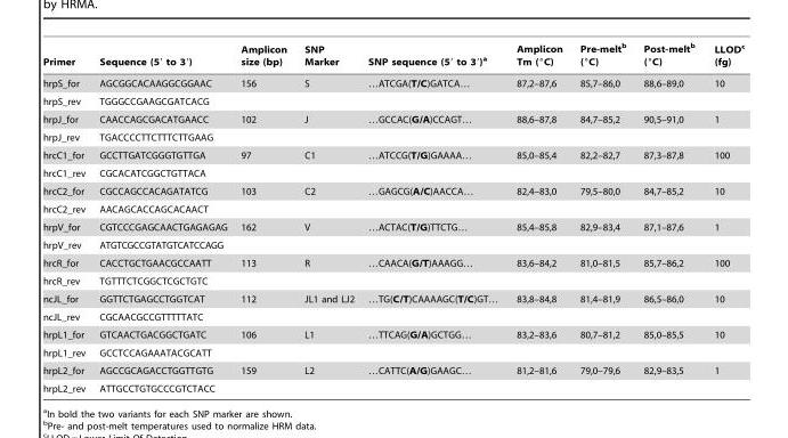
<table><thead><tr><td>Primer</td><td>Sequence (5′ to 3′)</td><td>Amplicon size (bp)</td><td>SNP Marker</td><td>SNP sequence (5′ to 3′)<sup>a</sup></td><td>Amplicon Tm (°C)</td><td>Pre-melt<sup>b</sup> (°C)</td><td>Post-melt<sup>b</sup> (°C)</td><td>LLOD<sup>c</sup> (fg)</td></tr></thead><tbody><tr><td>hrpS_for</td><td>AGCGGCACAAGGCGGAAC</td><td>156</td><td>S</td><td>…ATCGA(T/C)GATCA…</td><td>87,2–87,6</td><td>85,7–86,0</td><td>88,6–89,0</td><td>10</td></tr><tr><td>hrpS_rev</td><td>TGGGCCGAAGCGATCACG</td><td></td><td></td><td></td><td></td><td></td><td></td><td></td></tr><tr><td>hrpJ_for</td><td>CAACCAGCGACATGAACC</td><td>102</td><td>J</td><td>…GCCAC(G/A)CCAGT…</td><td>88,6–87,8</td><td>84,7–85,2</td><td>90,5–91,0</td><td>1</td></tr><tr><td>hrpJ_rev</td><td>TGACCCCTTCTTTCTTGAAG</td><td></td><td></td><td></td><td></td><td></td><td></td><td></td></tr><tr><td>hrcC1_for</td><td>GCCTTGATCGGGTGTTGA</td><td>97</td><td>C1</td><td>…ATCCG(T/G)GAAAA…</td><td>85,0–85,4</td><td>82,2–82,7</td><td>87,3–87,8</td><td>100</td></tr><tr><td>hrcC1_rev</td><td>CGCACATCGGCTGTTACA</td><td></td><td></td><td></td><td></td><td></td><td></td><td></td></tr><tr><td>hrcC2_for</td><td>CGCCAGCCACAGATATCG</td><td>103</td><td>C2</td><td>…GAGCG(A/C)AACCA…</td><td>82,4–83,0</td><td>79,5–80,0</td><td>84,7–85,2</td><td>10</td></tr><tr><td>hrcC2_rev</td><td>AACAGCACCAGCACAACT</td><td></td><td></td><td></td><td></td><td></td><td></td><td></td></tr><tr><td>hrpV_for</td><td>CGTCCCGAGCAACTGAGAGAG</td><td>162</td><td>V</td><td>…ACTAC(T/G)TTCTG…</td><td>85,4–85,8</td><td>82,9–83,4</td><td>87,1–87,6</td><td>1</td></tr><tr><td>hrpV_rev</td><td>ATGTCGCCGTATGTCATCCAGG</td><td></td><td></td><td></td><td></td><td></td><td></td><td></td></tr><tr><td>hrcR_for</td><td>CACCTGCTGAACGCCAATT</td><td>113</td><td>R</td><td>…CAACA(G/T)AAAGG…</td><td>83,6–84,2</td><td>81,0–81,5</td><td>85,7–86,2</td><td>100</td></tr><tr><td>hrcR_rev</td><td>TGTTTCTCGGCTCGCTGTC</td><td></td><td></td><td></td><td></td><td></td><td></td><td></td></tr><tr><td>ncJL_for</td><td>GGTTCTGAGCCTGGTCAT</td><td>112</td><td>JL1 and LJ2</td><td>…TG(C/T)CAAAAGC(T/C)GT…</td><td>83,8–84,8</td><td>81,4–81,9</td><td>86,5–86,0</td><td>10</td></tr><tr><td>ncJL_rev</td><td>CGCAACGCCGTTTTTATC</td><td></td><td></td><td></td><td></td><td></td><td></td><td></td></tr><tr><td>hrpL1_for</td><td>GTCAACTGACGGCTGATC</td><td>106</td><td>L1</td><td>…TTCAG(G/A)GCTGG…</td><td>83,2–83,6</td><td>80,7–81,2</td><td>85,0–85,5</td><td>10</td></tr><tr><td>hrpL1_rev</td><td>GCCTCCAGAAATACGCATT</td><td></td><td></td><td></td><td></td><td></td><td></td><td></td></tr><tr><td>hrpL2_for</td><td>AGCCGCAGACCTGGTTGTG</td><td>159</td><td>L2</td><td>…CATTC(A/G)GAAGC…</td><td>81,2–81,6</td><td>79,0–79,6</td><td>82,9–83,5</td><td>1</td></tr><tr><td>hrpL2_rev</td><td>ATTGCCTGTGCCCGTCTACC</td><td></td><td></td><td></td><td></td><td></td><td></td><td></td></tr></tbody></table>